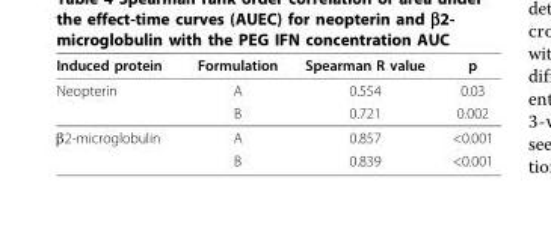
<table><thead><tr><td>Induced protein</td><td>Formulation</td><td>Spearman R value</td><td>p</td></tr></thead><tbody><tr><td rowspan="2">Neopterin</td><td>A</td><td>0.554</td><td>0.03</td></tr><tr><td>B</td><td>0.721</td><td>0.002</td></tr><tr><td rowspan="2">β2-microglobulin</td><td>A</td><td>0.857</td><td>&lt;0.001</td></tr><tr><td>B</td><td>0.839</td><td>&lt;0.001</td></tr></tbody></table>